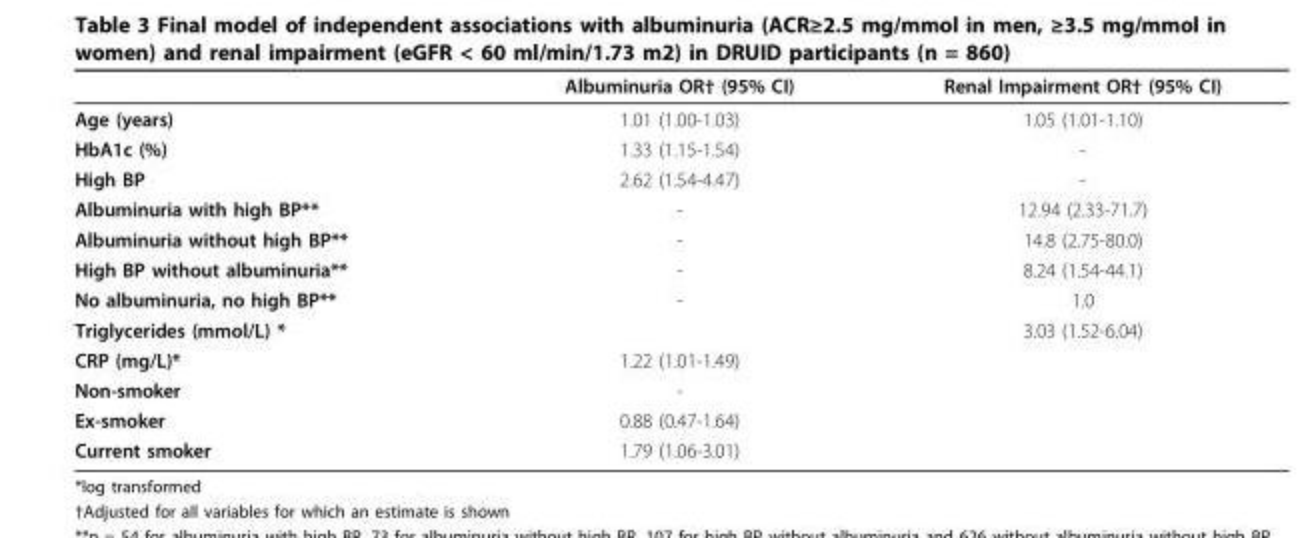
<table><thead><tr><td></td><td>Albuminuria OR† (95% CI)</td><td>Renal Impairment OR† (95% CI)</td></tr></thead><tbody><tr><td>Age (years)</td><td>1.01 (1.00-1.03)</td><td>1.05 (1.01-1.10)</td></tr><tr><td>HbA1c (%)</td><td>1.33 (1.15-1.54)</td><td>-</td></tr><tr><td>High BP</td><td>2.62 (1.54-4.47)</td><td>-</td></tr><tr><td>Albuminuria with high BP**</td><td>-</td><td>12.94 (2.33-71.7)</td></tr><tr><td>Albuminuria without high BP**</td><td>-</td><td>14.8 (2.75-80.0)</td></tr><tr><td>High BP without albuminuria**</td><td>-</td><td>8.24 (1.54-44.1)</td></tr><tr><td>No albuminuria, no high BP**</td><td>-</td><td>1.0</td></tr><tr><td>Triglycerides (mmol/L) *</td><td></td><td>3.03 (1.52-6.04)</td></tr><tr><td>CRP (mg/L)*</td><td>1.22 (1.01-1.49)</td><td></td></tr><tr><td>Non-smoker</td><td>-</td><td></td></tr><tr><td>Ex-smoker</td><td>0.88 (0.47-1.64)</td><td></td></tr><tr><td>Current smoker</td><td>1.79 (1.06-3.01)</td><td></td></tr></tbody></table>